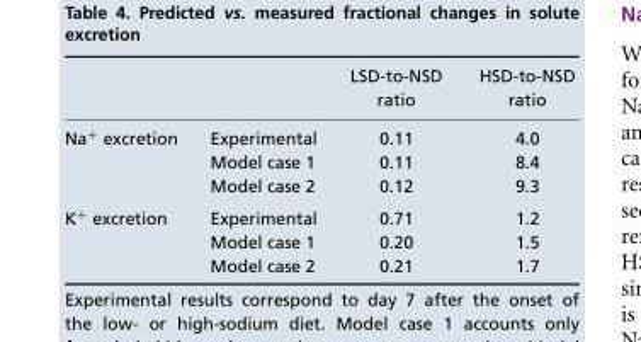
<table><thead><tr><td></td><td></td><td>LSD-to-NSD ratio</td><td>HSD-to-NSD ratio</td></tr></thead><tbody><tr><td rowspan="3">Na<sup>+</sup> excretion</td><td>Experimental</td><td>0.11</td><td>4.0</td></tr><tr><td>Model case 1</td><td>0.11</td><td>8.4</td></tr><tr><td>Model case 2</td><td>0.12</td><td>9.3</td></tr><tr><td rowspan="3">K<sup>+</sup> excretion</td><td>Experimental</td><td>0.71</td><td>1.2</td></tr><tr><td>Model case 1</td><td>0.20</td><td>1.5</td></tr><tr><td>Model case 2</td><td>0.21</td><td>1.7</td></tr></tbody></table>